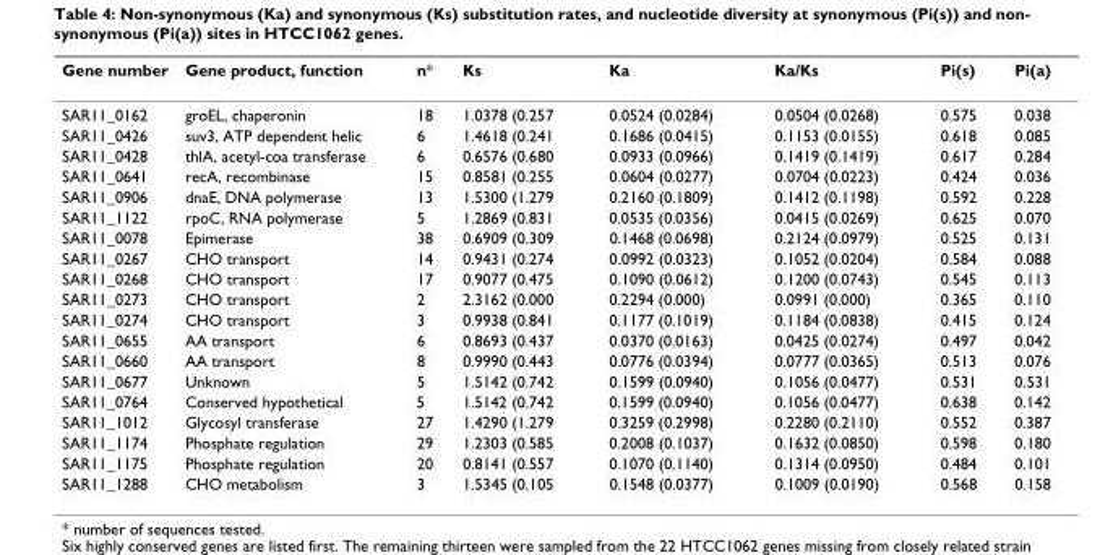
<table><thead><tr><td>Gene number</td><td>Gene product, function</td><td>n*</td><td>Ks</td><td>Ka</td><td>Ka/Ks</td><td>Pi(s)</td><td>Pi(a)</td></tr></thead><tbody><tr><td>SAR11_0162</td><td>groEL, chaperonin</td><td>18</td><td>1.0378 (0.257</td><td>0.0524 (0.0284)</td><td>0.0504 (0.0268)</td><td>0.575</td><td>0.038</td></tr><tr><td>SAR11_0426</td><td>suv3, ATP dependent helic</td><td>6</td><td>1.4618 (0.241</td><td>0.1686 (0.0415)</td><td>0.1153 (0.0155)</td><td>0.618</td><td>0.085</td></tr><tr><td>SAR11_0428</td><td>thlA, acetyl-coa transferase</td><td>6</td><td>0.6576 (0.680</td><td>0.0933 (0.0966)</td><td>0.1419 (0.1419)</td><td>0.617</td><td>0.284</td></tr><tr><td>SAR11_0641</td><td>recA, recombinase</td><td>15</td><td>0.8581 (0.255</td><td>0.0604 (0.0277)</td><td>0.0704 (0.0223)</td><td>0.424</td><td>0.036</td></tr><tr><td>SAR11_0906</td><td>dnaE, DNA polymerase</td><td>13</td><td>1.5300 (1.279</td><td>0.2160 (0.1809)</td><td>0.1412 (0.1198)</td><td>0.592</td><td>0.228</td></tr><tr><td>SAR11_1122</td><td>rpoC, RNA polymerase</td><td>5</td><td>1.2869 (0.831</td><td>0.0535 (0.0356)</td><td>0.0415 (0.0269)</td><td>0.625</td><td>0.070</td></tr><tr><td>SAR11_0078</td><td>Epimerase</td><td>38</td><td>0.6909 (0.309</td><td>0.1468 (0.0698)</td><td>0.2124 (0.0979)</td><td>0.525</td><td>0.131</td></tr><tr><td>SAR11_0267</td><td>CHO transport</td><td>14</td><td>0.9431 (0.274</td><td>0.0992 (0.0323)</td><td>0.1052 (0.0204)</td><td>0.584</td><td>0.088</td></tr><tr><td>SAR11_0268</td><td>CHO transport</td><td>17</td><td>0.9077 (0.475</td><td>0.1090 (0.0612)</td><td>0.1200 (0.0743)</td><td>0.545</td><td>0.113</td></tr><tr><td>SAR11_0273</td><td>CHO transport</td><td>2</td><td>2.3162 (0.000</td><td>0.2294 (0.000)</td><td>0.0991 (0.000)</td><td>0.365</td><td>0.110</td></tr><tr><td>SAR11_0274</td><td>CHO transport</td><td>3</td><td>0.9938 (0.841</td><td>0.1177 (0.1019)</td><td>0.1184 (0.0838)</td><td>0.415</td><td>0.124</td></tr><tr><td>SAR11_0655</td><td>AA transport</td><td>6</td><td>0.8693 (0.437</td><td>0.0370 (0.0163)</td><td>0.0425 (0.0274)</td><td>0.497</td><td>0.042</td></tr><tr><td>SAR11_0660</td><td>AA transport</td><td>8</td><td>0.9990 (0.443</td><td>0.0776 (0.0394)</td><td>0.0777 (0.0365)</td><td>0.513</td><td>0.076</td></tr><tr><td>SAR11_0677</td><td>Unknown</td><td>5</td><td>1.5142 (0.742</td><td>0.1599 (0.0940)</td><td>0.1056 (0.0477)</td><td>0.531</td><td>0.531</td></tr><tr><td>SAR11_0764</td><td>Conserved hypothetical</td><td>5</td><td>1.5142 (0.742</td><td>0.1599 (0.0940)</td><td>0.1056 (0.0477)</td><td>0.638</td><td>0.142</td></tr><tr><td>SAR11_1012</td><td>Glycosyl transferase</td><td>27</td><td>1.4290 (1.279</td><td>0.3259 (0.2998)</td><td>0.2280 (0.2110)</td><td>0.552</td><td>0.387</td></tr><tr><td>SAR11_1174</td><td>Phosphate regulation</td><td>29</td><td>1.2303 (0.585</td><td>0.2008 (0.1037)</td><td>0.1632 (0.0850)</td><td>0.598</td><td>0.180</td></tr><tr><td>SAR11_1175</td><td>Phosphate regulation</td><td>20</td><td>0.8141 (0.557</td><td>0.1070 (0.1140)</td><td>0.1314 (0.0950)</td><td>0.484</td><td>0.101</td></tr><tr><td>SAR11_1288</td><td>CHO metabolism</td><td>3</td><td>1.5345 (0.105</td><td>0.1548 (0.0377)</td><td>0.1009 (0.0190)</td><td>0.568</td><td>0.158</td></tr></tbody></table>